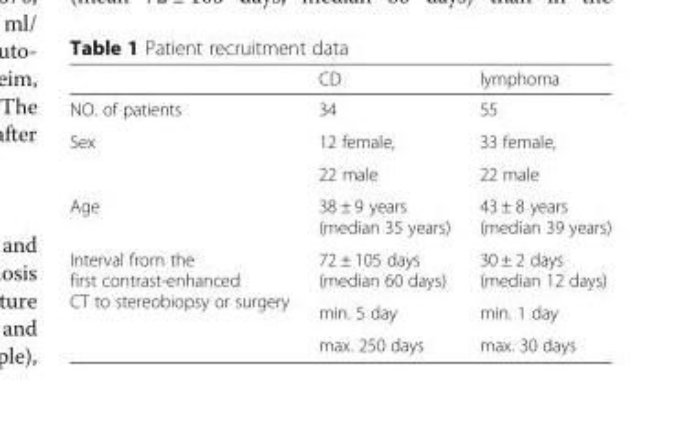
<table><thead><tr><td></td><td>CD</td><td>lymphoma</td></tr></thead><tbody><tr><td>NO. of patients</td><td>34</td><td>55</td></tr><tr><td rowspan="2">Sex</td><td>12 female,</td><td>33 female,</td></tr><tr><td>22 male</td><td>22 male</td></tr><tr><td>Age</td><td>38 ± 9 years (median 35 years)</td><td>43 ± 8 years (median 39 years)</td></tr><tr><td rowspan="3">Interval from the first contrast-enhanced CT to stereobiopsy or surgery</td><td>72 ± 105 days (median 60 days)</td><td>30 ± 2 days (median 12 days)</td></tr><tr><td>min. 5 day</td><td>min. 1 day</td></tr><tr><td>max. 250 days</td><td>max. 30 days</td></tr></tbody></table>